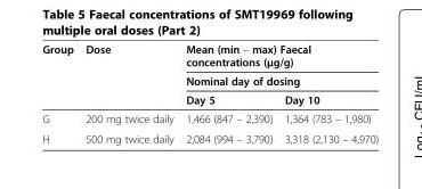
<table><thead><tr><td rowspan="3">Group</td><td rowspan="3">Dose</td><td rowspan="2" colspan="2">Mean (min – max) Faecal concentrations (μg/g) Nominal day of dosing</td></tr><tr></tr><tr><td>Day 5</td><td>Day 10</td></tr></thead><tbody><tr><td>G</td><td>200 mg twice daily</td><td>1,466 (847 – 2,390)</td><td>1,364 (783 – 1,980)</td></tr><tr><td>H</td><td>500 mg twice daily</td><td>2,084 (994 – 3,790)</td><td>3,318 (2,130 – 4,970)</td></tr></tbody></table>